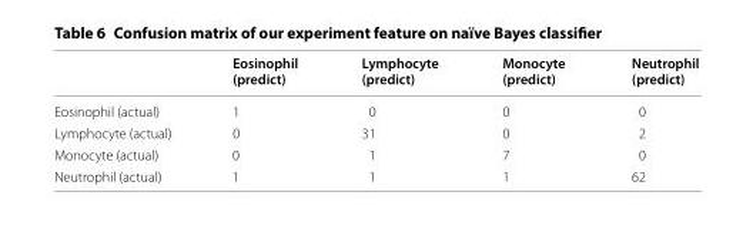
<table><thead><tr><td></td><td>Eosinophil (predict)</td><td>Lymphocyte (predict)</td><td>Monocyte (predict)</td><td>Neutrophil (predict)</td></tr></thead><tbody><tr><td>Eosinophil (actual)</td><td>1</td><td>0</td><td>0</td><td>0</td></tr><tr><td>Lymphocyte (actual)</td><td>0</td><td>31</td><td>0</td><td>2</td></tr><tr><td>Monocyte (actual)</td><td>0</td><td>1</td><td>7</td><td>0</td></tr><tr><td>Neutrophil (actual)</td><td>1</td><td>1</td><td>1</td><td>62</td></tr></tbody></table>